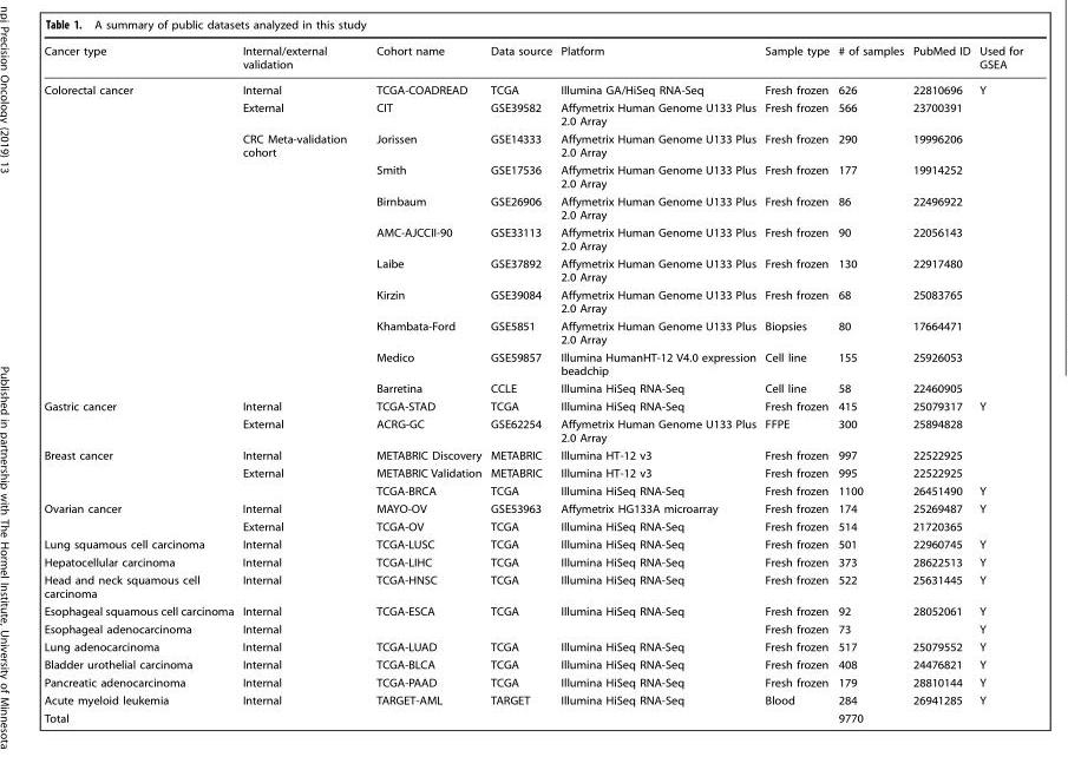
<table><thead><tr><td>Cancer type</td><td>Internal/external validation</td><td>Cohort name</td><td>Data source</td><td>Platform</td><td>Sample type</td><td># of samples</td><td>PubMed ID</td><td>Used for GSEA</td></tr></thead><tbody><tr><td rowspan="11">Colorectal cancer</td><td>Internal</td><td>TCGA-COADREAD</td><td>TCGA</td><td>Illumina GA/HiSeq RNA-Seq</td><td>Fresh frozen</td><td>626</td><td>22810696</td><td>Y</td></tr><tr><td>External</td><td>CIT</td><td>GSE39582</td><td>Affymetrix Human Genome U133 Plus 2.0 Array</td><td>Fresh frozen</td><td>566</td><td>23700391</td><td></td></tr><tr><td rowspan="6">CRC Meta-validation cohort</td><td>Jorissen</td><td>GSE14333</td><td>Affymetrix Human Genome U133 Plus 2.0 Array</td><td>Fresh frozen</td><td>290</td><td>19996206</td><td></td></tr><tr><td>Smith</td><td>GSE17536</td><td>Affymetrix Human Genome U133 Plus 2.0 Array</td><td>Fresh frozen</td><td>177</td><td>19914252</td><td></td></tr><tr><td>Birnbaum</td><td>GSE26906</td><td>Affymetrix Human Genome U133 Plus 2.0 Array</td><td>Fresh frozen</td><td>86</td><td>22496922</td><td></td></tr><tr><td>AMC-AJCCII-90</td><td>GSE33113</td><td>Affymetrix Human Genome U133 Plus 2.0 Array</td><td>Fresh frozen</td><td>90</td><td>22056143</td><td></td></tr><tr><td>Laibe</td><td>GSE37892</td><td>Affymetrix Human Genome U133 Plus 2.0 Array</td><td>Fresh frozen</td><td>130</td><td>22917480</td><td></td></tr><tr><td>Kirzin</td><td>GSE39084</td><td>Affymetrix Human Genome U133 Plus 2.0 Array</td><td>Fresh frozen</td><td>68</td><td>25083765</td><td></td></tr><tr><td></td><td>Khambata-Ford</td><td>GSE5851</td><td>Affymetrix Human Genome U133 Plus 2.0 Array</td><td>Biopsies</td><td>80</td><td>17664471</td><td></td></tr><tr><td></td><td>Medico</td><td>GSE59857</td><td>Illumina HumanHT-12 V4.0 expression beadchip</td><td>Cell line</td><td>155</td><td>25926053</td><td></td></tr><tr><td></td><td>Barretina</td><td>CCLE</td><td>Illumina HiSeq RNA-Seq</td><td>Cell line</td><td>58</td><td>22460905</td><td></td></tr><tr><td rowspan="2">Gastric cancer</td><td>Internal</td><td>TCGA-STAD</td><td>TCGA</td><td>Illumina HiSeq RNA-Seq</td><td>Fresh frozen</td><td>415</td><td>25079317</td><td>Y</td></tr><tr><td>External</td><td>ACRG-GC</td><td>GSE62254</td><td>Affymetrix Human Genome U133 Plus 2.0 Array</td><td>FFPE</td><td>300</td><td>25894828</td><td></td></tr><tr><td rowspan="3">Breast cancer</td><td>Internal</td><td>METABRIC Discovery</td><td>METABRIC</td><td>Illumina HT-12 v3</td><td>Fresh frozen</td><td>997</td><td>22522925</td><td></td></tr><tr><td>External</td><td>METABRIC Validation</td><td>METABRIC</td><td>Illumina HT-12 v3</td><td>Fresh frozen</td><td>995</td><td>22522925</td><td></td></tr><tr><td></td><td>TCGA-BRCA</td><td>TCGA</td><td>Illumina HiSeq RNA-Seq</td><td>Fresh frozen</td><td>1100</td><td>26451490</td><td>Y</td></tr><tr><td rowspan="2">Ovarian cancer</td><td>Internal</td><td>MAYO-OV</td><td>GSE53963</td><td>Affymetrix HG133A microarray</td><td>Fresh frozen</td><td>174</td><td>25269487</td><td>Y</td></tr><tr><td>External</td><td>TCGA-OV</td><td>TCGA</td><td>Illumina HiSeq RNA-Seq</td><td>Fresh frozen</td><td>514</td><td>21720365</td><td></td></tr><tr><td>Lung squamous cell carcinoma</td><td>Internal</td><td>TCGA-LUSC</td><td>TCGA</td><td>Illumina HiSeq RNA-Seq</td><td>Fresh frozen</td><td>501</td><td>22960745</td><td>Y</td></tr><tr><td>Hepatocellular carcinoma</td><td>Internal</td><td>TCGA-LIHC</td><td>TCGA</td><td>Illumina HiSeq RNA-Seq</td><td>Fresh frozen</td><td>373</td><td>28622513</td><td>Y</td></tr><tr><td>Head and neck squamous cell carcinoma</td><td>Internal</td><td>TCGA-HNSC</td><td>TCGA</td><td>Illumina HiSeq RNA-Seq</td><td>Fresh frozen</td><td>522</td><td>25631445</td><td>Y</td></tr><tr><td>Esophageal squamous cell carcinoma</td><td>Internal</td><td>TCGA-ESCA</td><td>TCGA</td><td>Illumina HiSeq RNA-Seq</td><td>Fresh frozen</td><td>92</td><td>28052061</td><td>Y</td></tr><tr><td>Esophageal adenocarcinoma</td><td>Internal</td><td></td><td></td><td></td><td>Fresh frozen</td><td>73</td><td></td><td>Y</td></tr><tr><td>Lung adenocarcinoma</td><td>Internal</td><td>TCGA-LUAD</td><td>TCGA</td><td>Illumina HiSeq RNA-Seq</td><td>Fresh frozen</td><td>517</td><td>25079552</td><td>Y</td></tr><tr><td>Bladder urothelial carcinoma</td><td>Internal</td><td>TCGA-BLCA</td><td>TCGA</td><td>Illumina HiSeq RNA-Seq</td><td>Fresh frozen</td><td>408</td><td>24476821</td><td>Y</td></tr><tr><td>Pancreatic adenocarcinoma</td><td>Internal</td><td>TCGA-PAAD</td><td>TCGA</td><td>Illumina HiSeq RNA-Seq</td><td>Fresh frozen</td><td>179</td><td>28810144</td><td>Y</td></tr><tr><td>Acute myeloid leukemia</td><td>Internal</td><td>TARGET-AML</td><td>TARGET</td><td>Illumina HiSeq RNA-Seq</td><td>Blood</td><td>284</td><td>26941285</td><td>Y</td></tr><tr><td>Total</td><td></td><td></td><td></td><td></td><td></td><td>9770</td><td></td><td></td></tr></tbody></table>